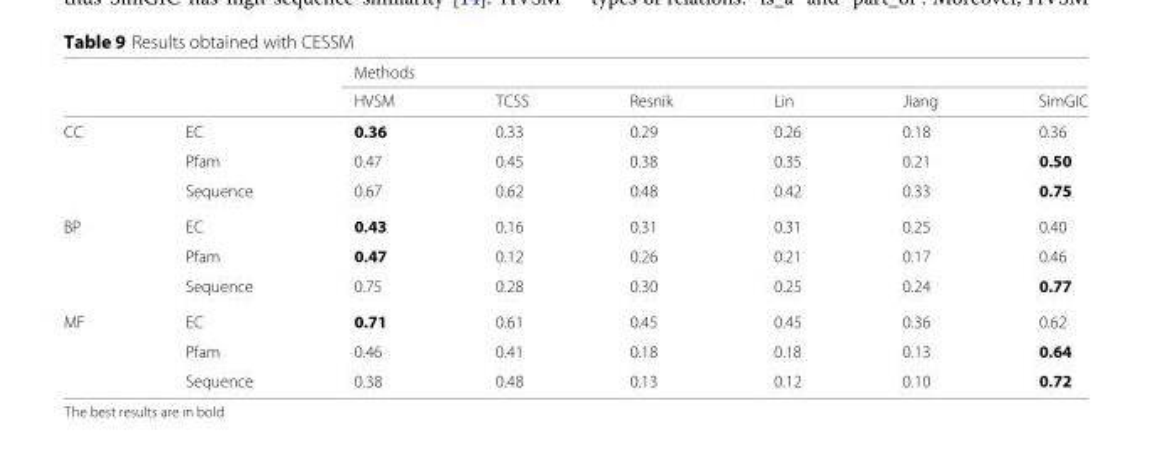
<table><thead><tr><td rowspan="2"></td><td rowspan="2"></td><td colspan="6">Methods</td></tr><tr><td>HVSM</td><td>TCSS</td><td>Resnik</td><td>Lin</td><td>Jiang</td><td>SimGIC</td></tr></thead><tbody><tr><td rowspan="3">CC</td><td>EC</td><td>0.36</td><td>0.33</td><td>0.29</td><td>0.26</td><td>0.18</td><td>0.36</td></tr><tr><td>Pfam</td><td>0.47</td><td>0.45</td><td>0.38</td><td>0.35</td><td>0.21</td><td>0.50</td></tr><tr><td>Sequence</td><td>0.67</td><td>0.62</td><td>0.48</td><td>0.42</td><td>0.33</td><td>0.75</td></tr><tr><td rowspan="3">BP</td><td>EC</td><td>0.43</td><td>0.16</td><td>0.31</td><td>0.31</td><td>0.25</td><td>0.40</td></tr><tr><td>Pfam</td><td>0.47</td><td>0.12</td><td>0.26</td><td>0.21</td><td>0.17</td><td>0.46</td></tr><tr><td>Sequence</td><td>0.75</td><td>0.28</td><td>0.30</td><td>0.25</td><td>0.24</td><td>0.77</td></tr><tr><td rowspan="3">MF</td><td>EC</td><td>0.71</td><td>0.61</td><td>0.45</td><td>0.45</td><td>0.36</td><td>0.62</td></tr><tr><td>Pfam</td><td>0.46</td><td>0.41</td><td>0.18</td><td>0.18</td><td>0.13</td><td>0.64</td></tr><tr><td>Sequence</td><td>0.38</td><td>0.48</td><td>0.13</td><td>0.12</td><td>0.10</td><td>0.72</td></tr></tbody></table>